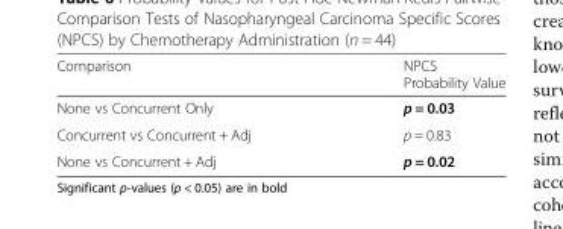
<table><thead><tr><td>Comparison</td><td>NPCS Probability Value</td></tr></thead><tbody><tr><td>None vs Concurrent Only</td><td>p = 0.03</td></tr><tr><td>Concurrent vs Concurrent + Adj</td><td>p = 0.83</td></tr><tr><td>None vs Concurrent + Adj</td><td>p = 0.02</td></tr></tbody></table>